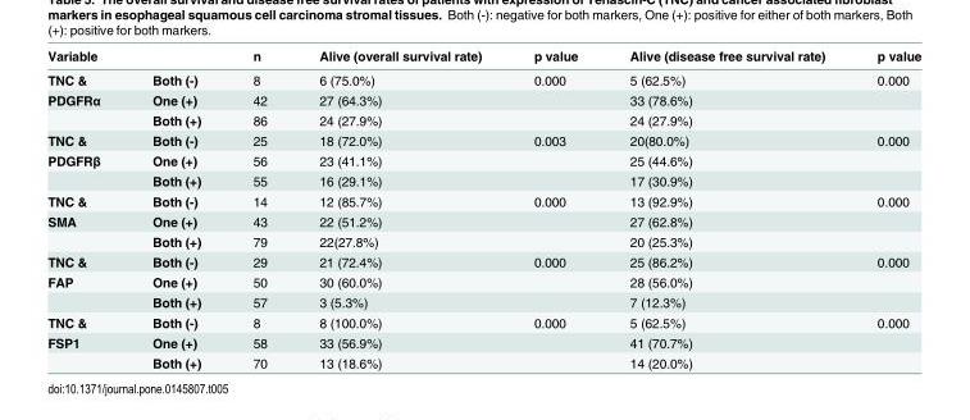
<table><thead><tr><td>Variable</td><td></td><td>n</td><td>Alive (overall survival rate)</td><td>p value</td><td>Alive (disease free survival rate)</td><td>p value</td></tr></thead><tbody><tr><td>TNC &amp;</td><td>Both (-)</td><td>8</td><td>6 (75.0%)</td><td>0.000</td><td>5 (62.5%)</td><td>0.000</td></tr><tr><td rowspan="2">PDGFRα</td><td>One (+)</td><td>42</td><td>27 (64.3%)</td><td></td><td>33 (78.6%)</td><td></td></tr><tr><td>Both (+)</td><td>86</td><td>24 (27.9%)</td><td></td><td>24 (27.9%)</td><td></td></tr><tr><td>TNC &amp;</td><td>Both (-)</td><td>25</td><td>18 (72.0%)</td><td>0.003</td><td>20(80.0%)</td><td>0.000</td></tr><tr><td rowspan="2">PDGFRβ</td><td>One (+)</td><td>56</td><td>23 (41.1%)</td><td></td><td>25 (44.6%)</td><td></td></tr><tr><td>Both (+)</td><td>55</td><td>16 (29.1%)</td><td></td><td>17 (30.9%)</td><td></td></tr><tr><td>TNC &amp;</td><td>Both (-)</td><td>14</td><td>12 (85.7%)</td><td>0.000</td><td>13 (92.9%)</td><td>0.000</td></tr><tr><td rowspan="2">SMA</td><td>One (+)</td><td>43</td><td>22 (51.2%)</td><td></td><td>27 (62.8%)</td><td></td></tr><tr><td>Both (+)</td><td>79</td><td>22(27.8%)</td><td></td><td>20 (25.3%)</td><td></td></tr><tr><td>TNC &amp;</td><td>Both (-)</td><td>29</td><td>21 (72.4%)</td><td>0.000</td><td>25 (86.2%)</td><td>0.000</td></tr><tr><td rowspan="2">FAP</td><td>One (+)</td><td>50</td><td>30 (60.0%)</td><td></td><td>28 (56.0%)</td><td></td></tr><tr><td>Both (+)</td><td>57</td><td>3 (5.3%)</td><td></td><td>7 (12.3%)</td><td></td></tr><tr><td>TNC &amp;</td><td>Both (-)</td><td>8</td><td>8 (100.0%)</td><td>0.000</td><td>5 (62.5%)</td><td>0.000</td></tr><tr><td rowspan="2">FSP1</td><td>One (+)</td><td>58</td><td>33 (56.9%)</td><td></td><td>41 (70.7%)</td><td></td></tr><tr><td>Both (+)</td><td>70</td><td>13 (18.6%)</td><td></td><td>14 (20.0%)</td><td></td></tr></tbody></table>